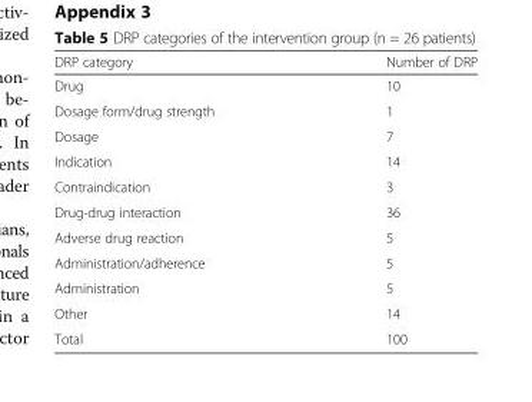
<table><thead><tr><td>DRP category</td><td>Number of DRP</td></tr></thead><tbody><tr><td>Drug</td><td>10</td></tr><tr><td>Dosage form/drug strength</td><td>1</td></tr><tr><td>Dosage</td><td>7</td></tr><tr><td>Indication</td><td>14</td></tr><tr><td>Contraindication</td><td>3</td></tr><tr><td>Drug-drug interaction</td><td>36</td></tr><tr><td>Adverse drug reaction</td><td>5</td></tr><tr><td>Administration/adherence</td><td>5</td></tr><tr><td>Administration</td><td>5</td></tr><tr><td>Other</td><td>14</td></tr><tr><td>Total</td><td>100</td></tr></tbody></table>